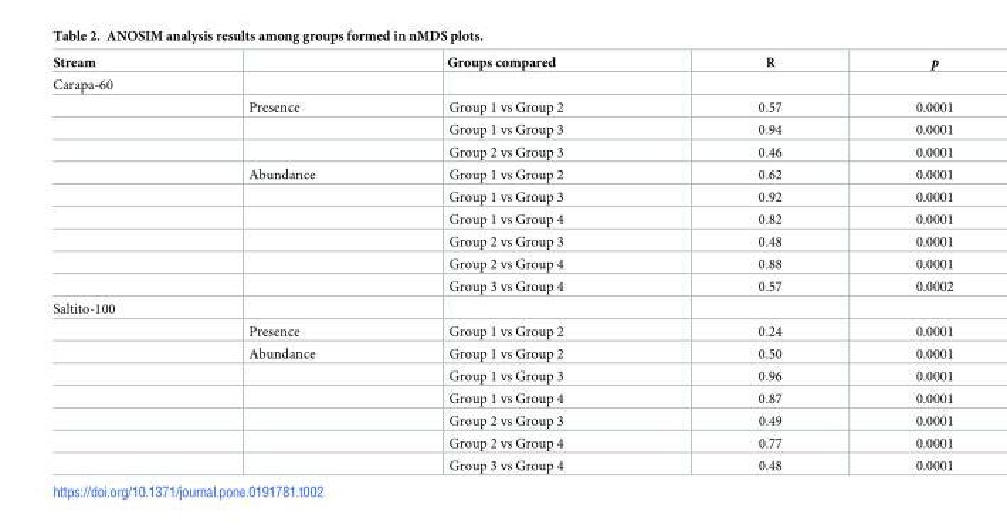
<table><thead><tr><td>Stream</td><td></td><td>Groups compared</td><td>R</td><td>p</td></tr></thead><tbody><tr><td colspan="5">Carapa-60</td></tr><tr><td></td><td>Presence</td><td>Group 1 vs Group 2</td><td>0.57</td><td>0.0001</td></tr><tr><td></td><td></td><td>Group 1 vs Group 3</td><td>0.94</td><td>0.0001</td></tr><tr><td></td><td></td><td>Group 2 vs Group 3</td><td>0.46</td><td>0.0001</td></tr><tr><td></td><td>Abundance</td><td>Group 1 vs Group 2</td><td>0.62</td><td>0.0001</td></tr><tr><td></td><td></td><td>Group 1 vs Group 3</td><td>0.92</td><td>0.0001</td></tr><tr><td></td><td></td><td>Group 1 vs Group 4</td><td>0.82</td><td>0.0001</td></tr><tr><td></td><td></td><td>Group 2 vs Group 3</td><td>0.48</td><td>0.0001</td></tr><tr><td></td><td></td><td>Group 2 vs Group 4</td><td>0.88</td><td>0.0001</td></tr><tr><td></td><td></td><td>Group 3 vs Group 4</td><td>0.57</td><td>0.0002</td></tr><tr><td colspan="5">Saltito-100</td></tr><tr><td></td><td>Presence</td><td>Group 1 vs Group 2</td><td>0.24</td><td>0.0001</td></tr><tr><td></td><td>Abundance</td><td>Group 1 vs Group 2</td><td>0.50</td><td>0.0001</td></tr><tr><td></td><td></td><td>Group 1 vs Group 3</td><td>0.96</td><td>0.0001</td></tr><tr><td></td><td></td><td>Group 1 vs Group 4</td><td>0.87</td><td>0.0001</td></tr><tr><td></td><td></td><td>Group 2 vs Group 3</td><td>0.49</td><td>0.0001</td></tr><tr><td></td><td></td><td>Group 2 vs Group 4</td><td>0.77</td><td>0.0001</td></tr><tr><td></td><td></td><td>Group 3 vs Group 4</td><td>0.48</td><td>0.0001</td></tr></tbody></table>